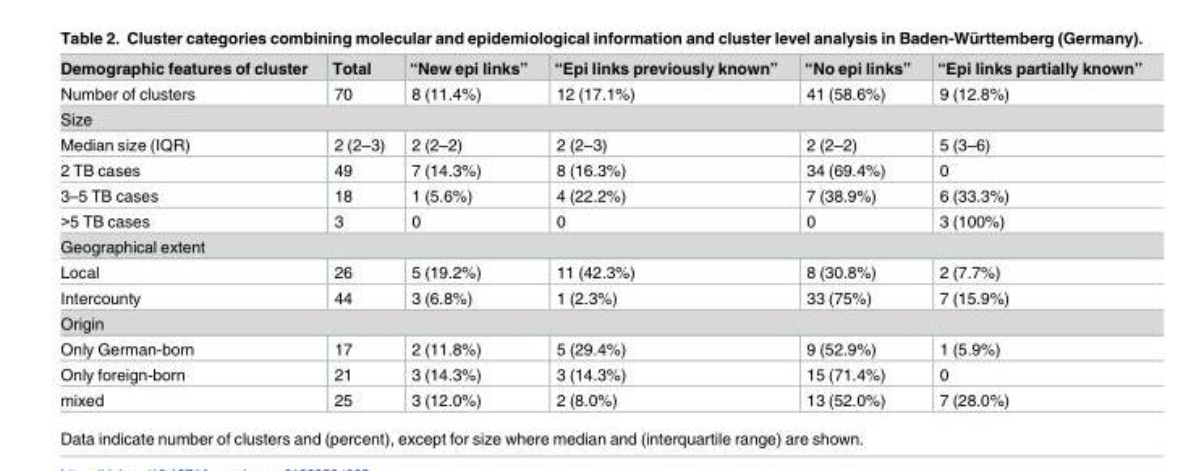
<table><thead><tr><td>Demographic features of cluster</td><td>Total</td><td>“New epi links”</td><td>“Epi links previously known”</td><td>“No epi links”</td><td>“Epi links partially known”</td></tr></thead><tbody><tr><td>Number of clusters</td><td>70</td><td>8 (11.4%)</td><td>12 (17.1%)</td><td>41 (58.6%)</td><td>9 (12.8%)</td></tr><tr><td colspan="6">Size</td></tr><tr><td>Median size (IQR)</td><td>2 (2–3)</td><td>2 (2–2)</td><td>2 (2–3)</td><td>2 (2–2)</td><td>5 (3–6)</td></tr><tr><td>2 TB cases</td><td>49</td><td>7 (14.3%)</td><td>8 (16.3%)</td><td>34 (69.4%)</td><td>0</td></tr><tr><td>3–5 TB cases</td><td>18</td><td>1 (5.6%)</td><td>4 (22.2%)</td><td>7 (38.9%)</td><td>6 (33.3%)</td></tr><tr><td>&gt;5 TB cases</td><td>3</td><td>0</td><td>0</td><td>0</td><td>3 (100%)</td></tr><tr><td colspan="6">Geographical extent</td></tr><tr><td>Local</td><td>26</td><td>5 (19.2%)</td><td>11 (42.3%)</td><td>8 (30.8%)</td><td>2 (7.7%)</td></tr><tr><td>Intercounty</td><td>44</td><td>3 (6.8%)</td><td>1 (2.3%)</td><td>33 (75%)</td><td>7 (15.9%)</td></tr><tr><td colspan="6">Origin</td></tr><tr><td>Only German-born</td><td>17</td><td>2 (11.8%)</td><td>5 (29.4%)</td><td>9 (52.9%)</td><td>1 (5.9%)</td></tr><tr><td>Only foreign-born</td><td>21</td><td>3 (14.3%)</td><td>3 (14.3%)</td><td>15 (71.4%)</td><td>0</td></tr><tr><td>mixed</td><td>25</td><td>3 (12.0%)</td><td>2 (8.0%)</td><td>13 (52.0%)</td><td>7 (28.0%)</td></tr></tbody></table>